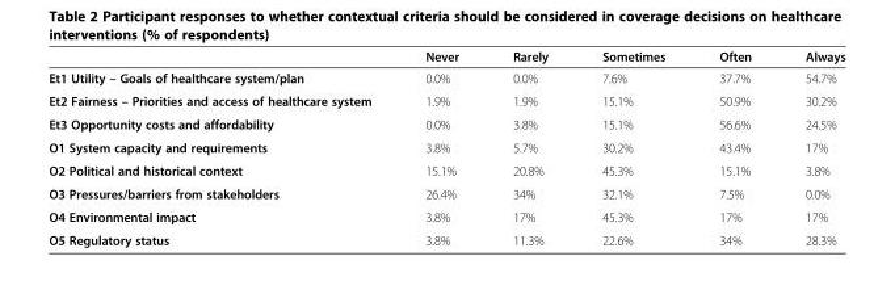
<table><thead><tr><td></td><td>Never</td><td>Rarely</td><td>Sometimes</td><td>Often</td><td>Always</td></tr></thead><tbody><tr><td>Et1 Utility – Goals of healthcare system/plan</td><td>0.0%</td><td>0.0%</td><td>7.6%</td><td>37.7%</td><td>54.7%</td></tr><tr><td>Et2 Fairness – Priorities and access of healthcare system</td><td>1.9%</td><td>1.9%</td><td>15.1%</td><td>50.9%</td><td>30.2%</td></tr><tr><td>Et3 Opportunity costs and affordability</td><td>0.0%</td><td>3.8%</td><td>15.1%</td><td>56.6%</td><td>24.5%</td></tr><tr><td>O1 System capacity and requirements</td><td>3.8%</td><td>5.7%</td><td>30.2%</td><td>43.4%</td><td>17%</td></tr><tr><td>O2 Political and historical context</td><td>15.1%</td><td>20.8%</td><td>45.3%</td><td>15.1%</td><td>3.8%</td></tr><tr><td>O3 Pressures/barriers from stakeholders</td><td>26.4%</td><td>34%</td><td>32.1%</td><td>7.5%</td><td>0.0%</td></tr><tr><td>O4 Environmental impact</td><td>3.8%</td><td>17%</td><td>45.3%</td><td>17%</td><td>17%</td></tr><tr><td>O5 Regulatory status</td><td>3.8%</td><td>11.3%</td><td>22.6%</td><td>34%</td><td>28.3%</td></tr></tbody></table>